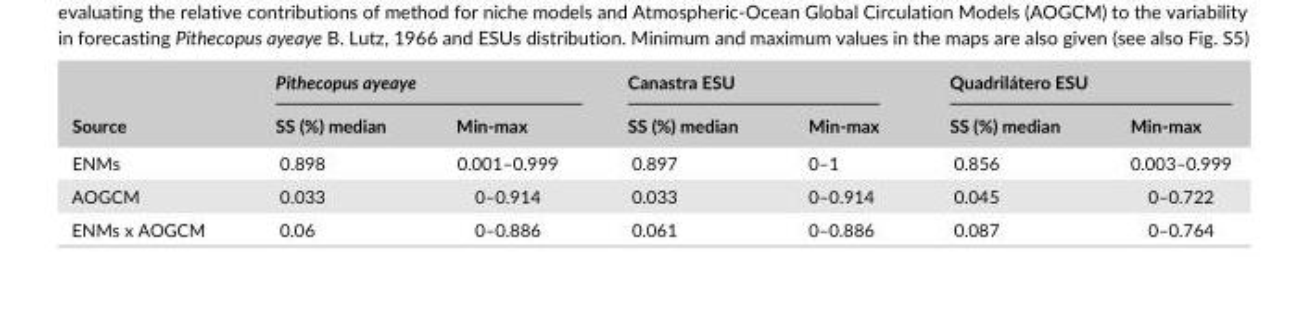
<table><thead><tr><td rowspan="2">Source</td><td colspan="2">Pithecopus ayeaye</td><td colspan="2">Canastra ESU</td><td colspan="2">Quadrilátero ESU</td></tr><tr><td>SS (%) median</td><td>Min- max</td><td>SS (%) median</td><td>Min- max</td><td>SS (%) median</td><td>Min- max</td></tr></thead><tbody><tr><td>ENMs</td><td>0.898</td><td>0.001–0.999</td><td>0.897</td><td>0–1</td><td>0.856</td><td>0.003–0.999</td></tr><tr><td>AOGCM</td><td>0.033</td><td>0–0.914</td><td>0.033</td><td>0–0.914</td><td>0.045</td><td>0–0.722</td></tr><tr><td>ENMs x AOGCM</td><td>0.06</td><td>0–0.886</td><td>0.061</td><td>0–0.886</td><td>0.087</td><td>0–0.764</td></tr></tbody></table>